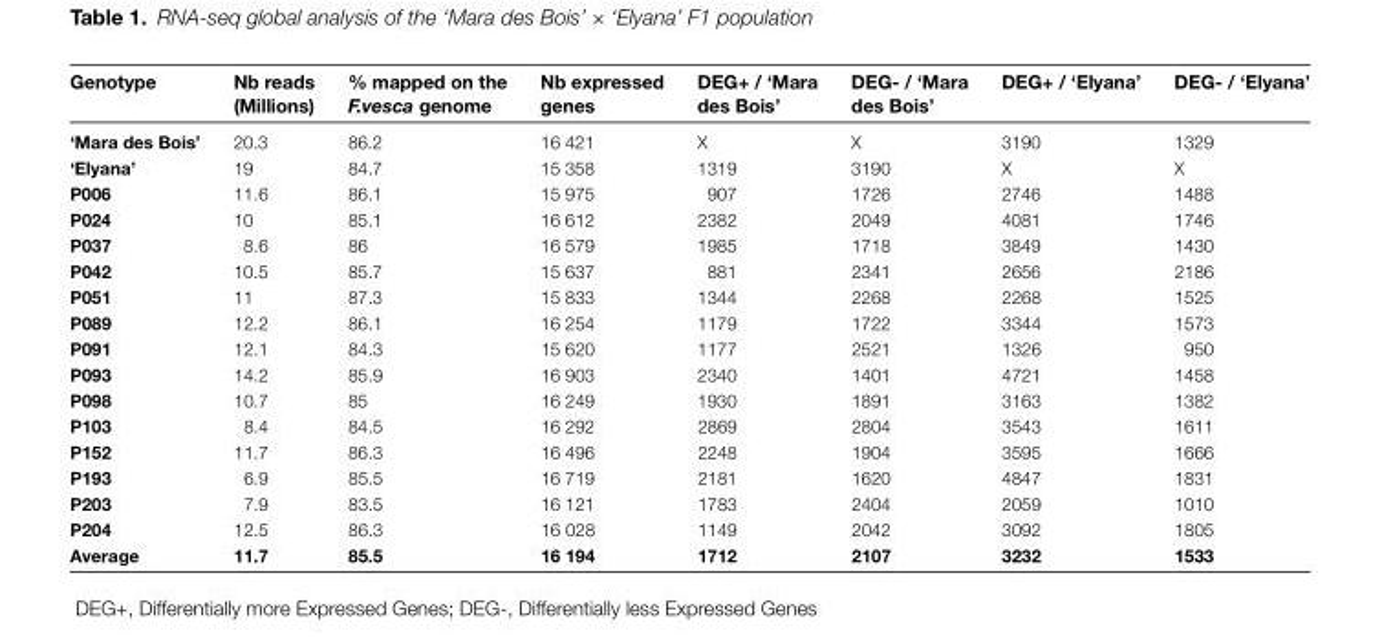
<table><thead><tr><td>Genotype</td><td>Nb reads (Millions)</td><td>% mapped on the F.vesca genome</td><td>Nb expressed genes</td><td>DEG+ / ‘Mara des Bois’</td><td>DEG- / ‘Mara des Bois’</td><td>DEG+ / ‘Elyana’</td><td>DEG- / ‘Elyana’</td></tr></thead><tbody><tr><td>‘Mara des Bois’</td><td>20.3</td><td>86.2</td><td>16 421</td><td>X</td><td>X</td><td>3190</td><td>1329</td></tr><tr><td>‘Elyana’</td><td>19</td><td>84.7</td><td>15 358</td><td>1319</td><td>3190</td><td>X</td><td>X</td></tr><tr><td>P006</td><td>11.6</td><td>86.1</td><td>15 975</td><td>907</td><td>1726</td><td>2746</td><td>1488</td></tr><tr><td>P024</td><td>10</td><td>85.1</td><td>16 612</td><td>2382</td><td>2049</td><td>4081</td><td>1746</td></tr><tr><td>P037</td><td>8.6</td><td>86</td><td>16 579</td><td>1985</td><td>1718</td><td>3849</td><td>1430</td></tr><tr><td>P042</td><td>10.5</td><td>85.7</td><td>15 637</td><td>881</td><td>2341</td><td>2656</td><td>2186</td></tr><tr><td>P051</td><td>11</td><td>87.3</td><td>15 833</td><td>1344</td><td>2268</td><td>2268</td><td>1525</td></tr><tr><td>P089</td><td>12.2</td><td>86.1</td><td>16 254</td><td>1179</td><td>1722</td><td>3344</td><td>1573</td></tr><tr><td>P091</td><td>12.1</td><td>84.3</td><td>15 620</td><td>1177</td><td>2521</td><td>1326</td><td>950</td></tr><tr><td>P093</td><td>14.2</td><td>85.9</td><td>16 903</td><td>2340</td><td>1401</td><td>4721</td><td>1458</td></tr><tr><td>P098</td><td>10.7</td><td>85</td><td>16 249</td><td>1930</td><td>1891</td><td>3163</td><td>1382</td></tr><tr><td>P103</td><td>8.4</td><td>84.5</td><td>16 292</td><td>2869</td><td>2804</td><td>3543</td><td>1611</td></tr><tr><td>P152</td><td>11.7</td><td>86.3</td><td>16 496</td><td>2248</td><td>1904</td><td>3595</td><td>1666</td></tr><tr><td>P193</td><td>6.9</td><td>85.5</td><td>16 719</td><td>2181</td><td>1620</td><td>4847</td><td>1831</td></tr><tr><td>P203</td><td>7.9</td><td>83.5</td><td>16 121</td><td>1783</td><td>2404</td><td>2059</td><td>1010</td></tr><tr><td>P204</td><td>12.5</td><td>86.3</td><td>16 028</td><td>1149</td><td>2042</td><td>3092</td><td>1805</td></tr><tr><td>Average</td><td>11.7</td><td>85.5</td><td>16 194</td><td>1712</td><td>2107</td><td>3232</td><td>1533</td></tr></tbody></table>